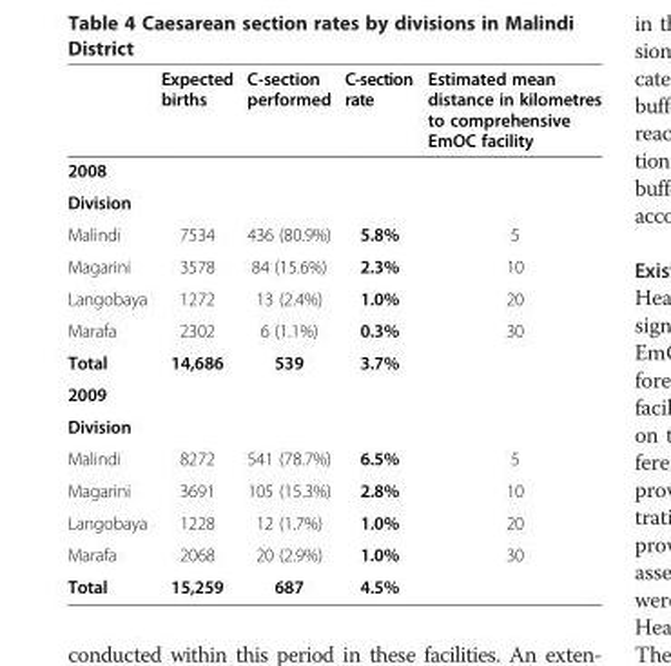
<table><thead><tr><td></td><td>Expected births</td><td>C-section performed</td><td>C-section rate</td><td>Estimated mean distance in kilometres to comprehensive EmOC facility</td></tr></thead><tbody><tr><td colspan="5">2008</td></tr><tr><td colspan="5">Division</td></tr><tr><td>Malindi</td><td>7534</td><td>436 (80.9%)</td><td>5.8%</td><td>5</td></tr><tr><td>Magarini</td><td>3578</td><td>84 (15.6%)</td><td>2.3%</td><td>10</td></tr><tr><td>Langobaya</td><td>1272</td><td>13 (2.4%)</td><td>1.0%</td><td>20</td></tr><tr><td>Marafa</td><td>2302</td><td>6 (1.1%)</td><td>0.3%</td><td>30</td></tr><tr><td>Total</td><td>14,686</td><td>539</td><td>3.7%</td><td></td></tr><tr><td colspan="5">2009</td></tr><tr><td colspan="5">Division</td></tr><tr><td>Malindi</td><td>8272</td><td>541 (78.7%)</td><td>6.5%</td><td>5</td></tr><tr><td>Magarini</td><td>3691</td><td>105 (15.3%)</td><td>2.8%</td><td>10</td></tr><tr><td>Langobaya</td><td>1228</td><td>12 (1.7%)</td><td>1.0%</td><td>20</td></tr><tr><td>Marafa</td><td>2068</td><td>20 (2.9%)</td><td>1.0%</td><td>30</td></tr><tr><td>Total</td><td>15,259</td><td>687</td><td>4.5%</td><td></td></tr></tbody></table>